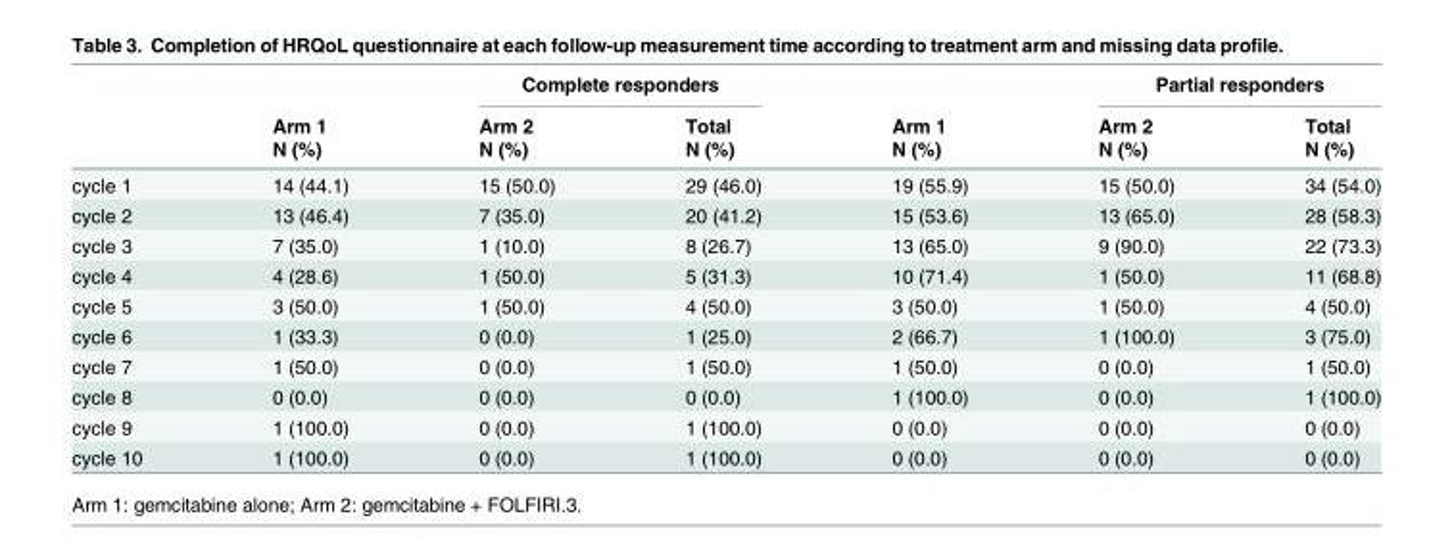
<table><thead><tr><td rowspan="3"></td><td rowspan="3">Arm 1 N (%)</td><td colspan="2">Complete responders</td><td rowspan="3">Arm 1 N (%)</td><td colspan="2">Partial responders</td></tr><tr><td rowspan="2">Arm 2 N (%)</td><td rowspan="2">Total N (%)</td><td rowspan="2">Arm 2 N (%)</td><td rowspan="2">Total N (%)</td></tr><tr></tr></thead><tbody><tr><td>cycle 1</td><td>14 (44.1)</td><td>15 (50.0)</td><td>29 (46.0)</td><td>19 (55.9)</td><td>15 (50.0)</td><td>34 (54.0)</td></tr><tr><td>cycle 2</td><td>13 (46.4)</td><td>7 (35.0)</td><td>20 (41.2)</td><td>15 (53.6)</td><td>13 (65.0)</td><td>28 (58.3)</td></tr><tr><td>cycle 3</td><td>7 (35.0)</td><td>1 (10.0)</td><td>8 (26.7)</td><td>13 (65.0)</td><td>9 (90.0)</td><td>22 (73.3)</td></tr><tr><td>cycle 4</td><td>4 (28.6)</td><td>1 (50.0)</td><td>5 (31.3)</td><td>10 (71.4)</td><td>1 (50.0)</td><td>11 (68.8)</td></tr><tr><td>cycle 5</td><td>3 (50.0)</td><td>1 (50.0)</td><td>4 (50.0)</td><td>3 (50.0)</td><td>1 (50.0)</td><td>4 (50.0)</td></tr><tr><td>cycle 6</td><td>1 (33.3)</td><td>0 (0.0)</td><td>1 (25.0)</td><td>2 (66.7)</td><td>1 (100.0)</td><td>3 (75.0)</td></tr><tr><td>cycle 7</td><td>1 (50.0)</td><td>0 (0.0)</td><td>1 (50.0)</td><td>1 (50.0)</td><td>0 (0.0)</td><td>1 (50.0)</td></tr><tr><td>cycle 8</td><td>0 (0.0)</td><td>0 (0.0)</td><td>0 (0.0)</td><td>1 (100.0)</td><td>0 (0.0)</td><td>1 (100.0)</td></tr><tr><td>cycle 9</td><td>1 (100.0)</td><td>0 (0.0)</td><td>1 (100.0)</td><td>0 (0.0)</td><td>0 (0.0)</td><td>0 (0.0)</td></tr><tr><td>cycle 10</td><td>1 (100.0)</td><td>0 (0.0)</td><td>1 (100.0)</td><td>0 (0.0)</td><td>0 (0.0)</td><td>0 (0.0)</td></tr></tbody></table>